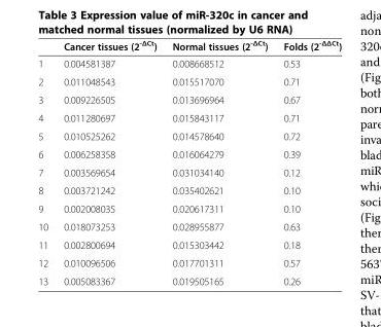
<table><thead><tr><td></td><td>Cancer tissues (2-ΔCt)</td><td>Normal tissues (2-ΔCt)</td><td>Folds (2-ΔΔCt)</td></tr></thead><tbody><tr><td>1</td><td>0.004581387</td><td>0.008668512</td><td>0.53</td></tr><tr><td>2</td><td>0.011048543</td><td>0.015517070</td><td>0.71</td></tr><tr><td>3</td><td>0.009226505</td><td>0.013696964</td><td>0.67</td></tr><tr><td>4</td><td>0.011280697</td><td>0.015843117</td><td>0.71</td></tr><tr><td>5</td><td>0.010525262</td><td>0.014578640</td><td>0.72</td></tr><tr><td>6</td><td>0.006258358</td><td>0.016064279</td><td>0.39</td></tr><tr><td>7</td><td>0.003569654</td><td>0.031034140</td><td>0.12</td></tr><tr><td>8</td><td>0.003721242</td><td>0.035402621</td><td>0.10</td></tr><tr><td>9</td><td>0.002008035</td><td>0.020617311</td><td>0.10</td></tr><tr><td>10</td><td>0.018073253</td><td>0.028955877</td><td>0.63</td></tr><tr><td>11</td><td>0.002800694</td><td>0.015303442</td><td>0.18</td></tr><tr><td>12</td><td>0.010096506</td><td>0.017701311</td><td>0.57</td></tr><tr><td>13</td><td>0.005083367</td><td>0.019505165</td><td>0.26</td></tr></tbody></table>